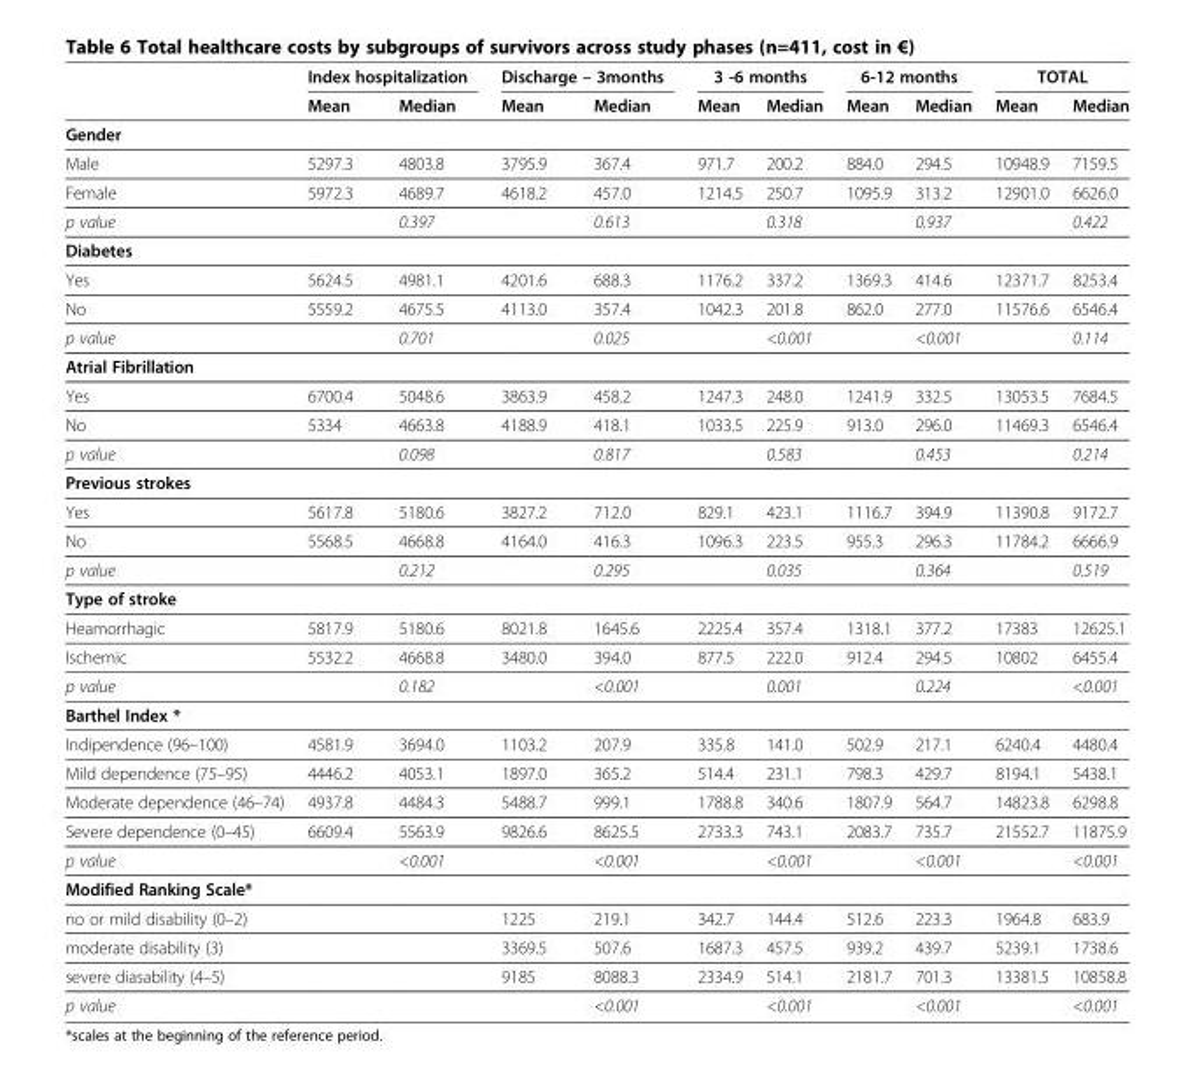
<table><thead><tr><td rowspan="2"></td><td colspan="2">Index hospitalization</td><td colspan="2">Discharge – 3months</td><td colspan="2">3 -6 months</td><td colspan="2">6-12 months</td><td colspan="2">TOTAL</td></tr><tr><td>Mean</td><td>Median</td><td>Mean</td><td>Median</td><td>Mean</td><td>Median</td><td>Mean</td><td>Median</td><td>Mean</td><td>Median</td></tr></thead><tbody><tr><td colspan="11">Gender</td></tr><tr><td>Male</td><td>5297.3</td><td>4803.8</td><td>3795.9</td><td>367.4</td><td>971.7</td><td>200.2</td><td>884.0</td><td>294.5</td><td>10948.9</td><td>7159.5</td></tr><tr><td>Female</td><td>5972.3</td><td>4689.7</td><td>4618.2</td><td>457.0</td><td>1214.5</td><td>250.7</td><td>1095.9</td><td>313.2</td><td>12901.0</td><td>6626.0</td></tr><tr><td>p value</td><td></td><td>0.397</td><td></td><td>0.613</td><td></td><td>0.318</td><td></td><td>0.937</td><td></td><td>0.422</td></tr><tr><td colspan="11">Diabetes</td></tr><tr><td>Yes</td><td>5624.5</td><td>4981.1</td><td>4201.6</td><td>688.3</td><td>1176.2</td><td>337.2</td><td>1369.3</td><td>414.6</td><td>12371.7</td><td>8253.4</td></tr><tr><td>No</td><td>5559.2</td><td>4675.5</td><td>4113.0</td><td>357.4</td><td>1042.3</td><td>201.8</td><td>862.0</td><td>277.0</td><td>11576.6</td><td>6546.4</td></tr><tr><td>p value</td><td></td><td>0.701</td><td></td><td>0.025</td><td></td><td>&lt;0.001</td><td></td><td>&lt;0.001</td><td></td><td>0.114</td></tr><tr><td colspan="11">Atrial Fibrillation</td></tr><tr><td>Yes</td><td>6700.4</td><td>5048.6</td><td>3863.9</td><td>458.2</td><td>1247.3</td><td>248.0</td><td>1241.9</td><td>332.5</td><td>13053.5</td><td>7684.5</td></tr><tr><td>No</td><td>5334</td><td>4663.8</td><td>4188.9</td><td>418.1</td><td>1033.5</td><td>225.9</td><td>913.0</td><td>296.0</td><td>11469.3</td><td>6546.4</td></tr><tr><td>p value</td><td></td><td>0.098</td><td></td><td>0.817</td><td></td><td>0.583</td><td></td><td>0.453</td><td></td><td>0.214</td></tr><tr><td colspan="11">Previous strokes</td></tr><tr><td>Yes</td><td>5617.8</td><td>5180.6</td><td>3827.2</td><td>712.0</td><td>829.1</td><td>423.1</td><td>1116.7</td><td>394.9</td><td>11390.8</td><td>9172.7</td></tr><tr><td>No</td><td>5568.5</td><td>4668.8</td><td>4164.0</td><td>416.3</td><td>1096.3</td><td>223.5</td><td>955.3</td><td>296.3</td><td>11784.2</td><td>6666.9</td></tr><tr><td>p value</td><td></td><td>0.212</td><td></td><td>0.295</td><td></td><td>0.035</td><td></td><td>0.364</td><td></td><td>0.519</td></tr><tr><td colspan="11">Type of stroke</td></tr><tr><td>Heamorrhagic</td><td>5817.9</td><td>5180.6</td><td>8021.8</td><td>1645.6</td><td>2225.4</td><td>357.4</td><td>1318.1</td><td>377.2</td><td>17383</td><td>12625.1</td></tr><tr><td>Ischemic</td><td>5532.2</td><td>4668.8</td><td>3480.0</td><td>394.0</td><td>877.5</td><td>222.0</td><td>912.4</td><td>294.5</td><td>10802</td><td>6455.4</td></tr><tr><td>p value</td><td></td><td>0.182</td><td></td><td>&lt;0.001</td><td></td><td>0.001</td><td></td><td>0.224</td><td></td><td>&lt;0.001</td></tr><tr><td colspan="11">Barthel Index *</td></tr><tr><td>Indipendence (96–100)</td><td>4581.9</td><td>3694.0</td><td>1103.2</td><td>207.9</td><td>335.8</td><td>141.0</td><td>502.9</td><td>217.1</td><td>6240.4</td><td>4480.4</td></tr><tr><td>Mild dependence (75–95)</td><td>4446.2</td><td>4053.1</td><td>1897.0</td><td>365.2</td><td>514.4</td><td>231.1</td><td>798.3</td><td>429.7</td><td>8194.1</td><td>5438.1</td></tr><tr><td>Moderate dependence (46–74)</td><td>4937.8</td><td>4484.3</td><td>5488.7</td><td>999.1</td><td>1788.8</td><td>340.6</td><td>1807.9</td><td>564.7</td><td>14823.8</td><td>6298.8</td></tr><tr><td>Severe dependence (0–45)</td><td>6609.4</td><td>5563.9</td><td>9826.6</td><td>8625.5</td><td>2733.3</td><td>743.1</td><td>2083.7</td><td>735.7</td><td>21552.7</td><td>11875.9</td></tr><tr><td>p value</td><td></td><td>&lt;0.001</td><td></td><td>&lt;0.001</td><td></td><td>&lt;0.001</td><td></td><td>&lt;0.001</td><td></td><td>&lt;0.001</td></tr><tr><td colspan="11">Modified Ranking Scale*</td></tr><tr><td>no or mild disability (0–2)</td><td></td><td></td><td>1225</td><td>219.1</td><td>342.7</td><td>144.4</td><td>512.6</td><td>223.3</td><td>1964.8</td><td>683.9</td></tr><tr><td>moderate disability (3)</td><td></td><td></td><td>3369.5</td><td>507.6</td><td>1687.3</td><td>457.5</td><td>939.2</td><td>439.7</td><td>5239.1</td><td>1738.6</td></tr><tr><td>severe diasability (4–5)</td><td></td><td></td><td>9185</td><td>8088.3</td><td>2334.9</td><td>514.1</td><td>2181.7</td><td>701.3</td><td>13381.5</td><td>10858.8</td></tr><tr><td>p value</td><td></td><td></td><td></td><td>&lt;0.001</td><td></td><td>&lt;0.001</td><td></td><td>&lt;0.001</td><td></td><td>&lt;0.001</td></tr></tbody></table>